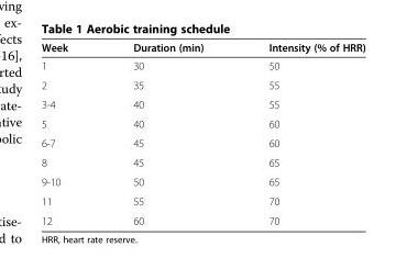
<table><thead><tr><td>Week</td><td>Duration (min)</td><td>Intensity (% of HRR)</td></tr></thead><tbody><tr><td>1</td><td>30</td><td>50</td></tr><tr><td>2</td><td>35</td><td>55</td></tr><tr><td>3-4</td><td>40</td><td>55</td></tr><tr><td>5</td><td>40</td><td>60</td></tr><tr><td>6-7</td><td>45</td><td>60</td></tr><tr><td>8</td><td>45</td><td>65</td></tr><tr><td>9-10</td><td>50</td><td>65</td></tr><tr><td>11</td><td>55</td><td>70</td></tr><tr><td>12</td><td>60</td><td>70</td></tr></tbody></table>